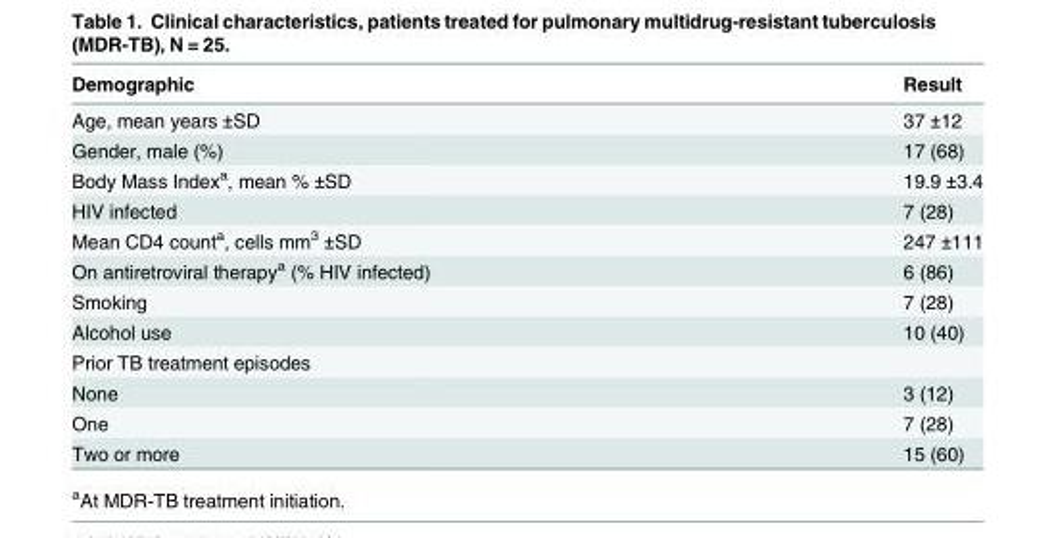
<table><thead><tr><td>Demographic</td><td>Result</td></tr></thead><tbody><tr><td>Age, mean years ±SD</td><td>37 ±12</td></tr><tr><td>Gender, male (%)</td><td>17 (68)</td></tr><tr><td>Body Mass Index<sup>a</sup>, mean % ±SD</td><td>19.9 ±3.4</td></tr><tr><td>HIV infected</td><td>7 (28)</td></tr><tr><td>Mean CD4 count<sup>a</sup>, cells mm<sup>3</sup> ±SD</td><td>247 ±111</td></tr><tr><td>On antiretroviral therapy<sup>a</sup> (% HIV infected)</td><td>6 (86)</td></tr><tr><td>Smoking</td><td>7 (28)</td></tr><tr><td>Alcohol use</td><td>10 (40)</td></tr><tr><td colspan="2">Prior TB treatment episodes</td></tr><tr><td>None</td><td>3 (12)</td></tr><tr><td>One</td><td>7 (28)</td></tr><tr><td>Two or more</td><td>15 (60)</td></tr></tbody></table>